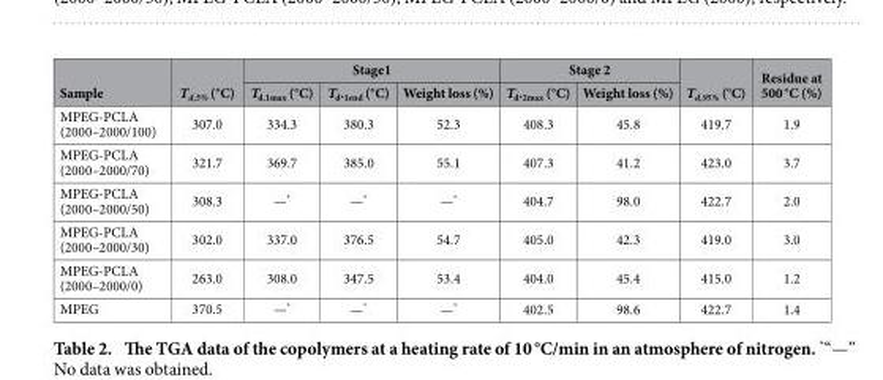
<table><thead><tr><td rowspan="2">Sample</td><td rowspan="2">T<sub>d,5%</sub> (°C)</td><td colspan="3">Stage1</td><td colspan="2">Stage 2</td><td rowspan="2">T<sub>d,95%</sub> (°C)</td><td rowspan="2">Residue at 500 °C (%)</td></tr><tr><td>T<sub>d.1max</sub> (°C)</td><td>T<sub>d</sub>.<sub>1end</sub> (°C)</td><td>Weight loss (%)</td><td>T<sub>d</sub>.<sub>2max</sub> (°C)</td><td>Weight loss (%)</td></tr></thead><tbody><tr><td>MPEG-PCLA (2000–2000/100)</td><td>307.0</td><td>334.3</td><td>380.3</td><td>52.3</td><td>408.3</td><td>45.8</td><td>419.7</td><td>1.9</td></tr><tr><td>MPEG-PCLA (2000–2000/70)</td><td>321.7</td><td>369.7</td><td>385.0</td><td>55.1</td><td>407.3</td><td>41.2</td><td>423.0</td><td>3.7</td></tr><tr><td>MPEG-PCLA (2000–2000/50)</td><td>308.3</td><td>—*</td><td>—*</td><td>—*</td><td>404.7</td><td>98.0</td><td>422.7</td><td>2.0</td></tr><tr><td>MPEG-PCLA (2000–2000/30)</td><td>302.0</td><td>337.0</td><td>376.5</td><td>54.7</td><td>405.0</td><td>42.3</td><td>419.0</td><td>3.0</td></tr><tr><td>MPEG-PCLA (2000–2000/0)</td><td>263.0</td><td>308.0</td><td>347.5</td><td>53.4</td><td>404.0</td><td>45.4</td><td>415.0</td><td>1.2</td></tr><tr><td>MPEG</td><td>370.5</td><td>—*</td><td>—*</td><td>—*</td><td>402.5</td><td>98.6</td><td>422.7</td><td>1.4</td></tr></tbody></table>